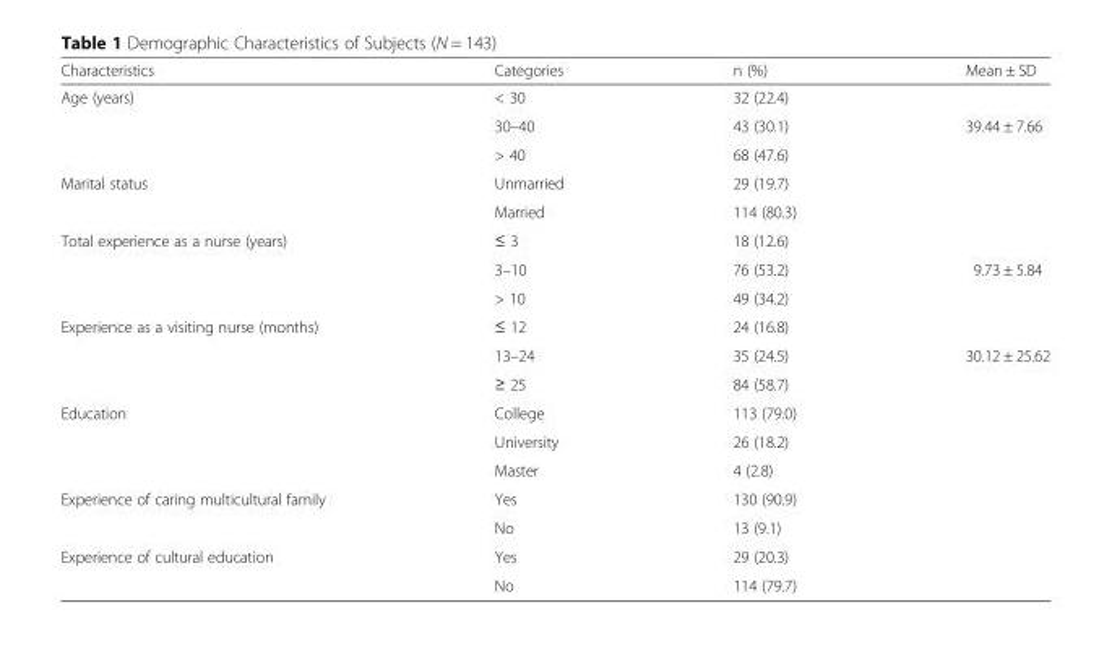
<table><thead><tr><td>Characteristics</td><td>Categories</td><td>n (%)</td><td>Mean ± SD</td></tr></thead><tbody><tr><td rowspan="3">Age (years)</td><td>&lt; 30</td><td>32 (22.4)</td><td></td></tr><tr><td>30–40</td><td>43 (30.1)</td><td>39.44 ± 7.66</td></tr><tr><td>&gt; 40</td><td>68 (47.6)</td><td></td></tr><tr><td rowspan="2">Marital status</td><td>Unmarried</td><td>29 (19.7)</td><td></td></tr><tr><td>Married</td><td>114 (80.3)</td><td></td></tr><tr><td rowspan="3">Total experience as a nurse (years)</td><td>≤ 3</td><td>18 (12.6)</td><td></td></tr><tr><td>3–10</td><td>76 (53.2)</td><td>9.73 ± 5.84</td></tr><tr><td>&gt; 10</td><td>49 (34.2)</td><td></td></tr><tr><td rowspan="3">Experience as a visiting nurse (months)</td><td>≤ 12</td><td>24 (16.8)</td><td></td></tr><tr><td>13–24</td><td>35 (24.5)</td><td>30.12 ± 25.62</td></tr><tr><td>≥ 25</td><td>84 (58.7)</td><td></td></tr><tr><td rowspan="3">Education</td><td>College</td><td>113 (79.0)</td><td></td></tr><tr><td>University</td><td>26 (18.2)</td><td></td></tr><tr><td>Master</td><td>4 (2.8)</td><td></td></tr><tr><td rowspan="2">Experience of caring multicultural family</td><td>Yes</td><td>130 (90.9)</td><td></td></tr><tr><td>No</td><td>13 (9.1)</td><td></td></tr><tr><td rowspan="2">Experience of cultural education</td><td>Yes</td><td>29 (20.3)</td><td></td></tr><tr><td>No</td><td>114 (79.7)</td><td></td></tr></tbody></table>